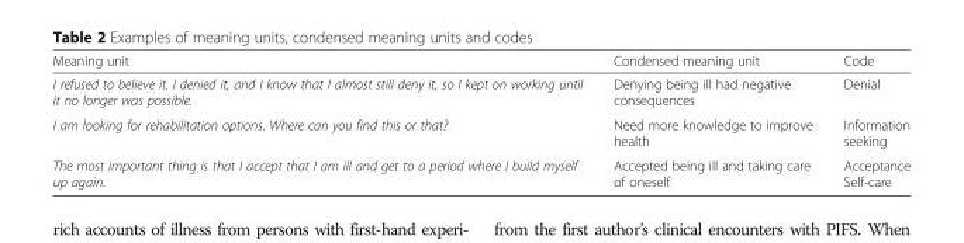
<table><thead><tr><td>Meaning unit</td><td>Condensed meaning unit</td><td>Code</td></tr></thead><tbody><tr><td>I refused to believe it. I denied it, and I know that I almost still deny it, so I kept on working until it no longer was possible.</td><td>Denying being ill had negative consequences</td><td>Denial</td></tr><tr><td>I am looking for rehabilitation options. Where can you find this or that?</td><td>Need more knowledge to improve health</td><td>Information seeking</td></tr><tr><td>The most important thing is that I accept that I am ill and get to a period where I build myself up again.</td><td>Accepted being ill and taking care of oneself</td><td>Acceptance Self-care</td></tr></tbody></table>